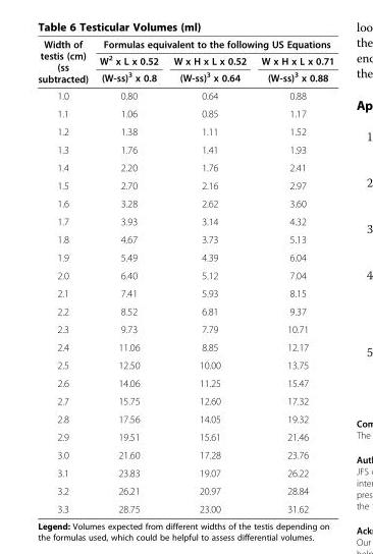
<table><thead><tr><td rowspan="3">Width of testis (cm) (ss subtracted)</td><td colspan="3">Formulas equivalent to the following US Equations</td></tr><tr><td rowspan="2">W<sup>2</sup> x L x 0.52 (W-ss)<sup>3</sup> x 0.8</td><td rowspan="2">W x H x L x 0.52 (W-ss)<sup>3</sup> x 0.64</td><td rowspan="2">W x H x L x 0.71 (W-ss)<sup>3</sup> x 0.88</td></tr><tr></tr></thead><tbody><tr><td>1.0</td><td>0.80</td><td>0.64</td><td>0.88</td></tr><tr><td>1.1</td><td>1.06</td><td>0.85</td><td>1.17</td></tr><tr><td>1.2</td><td>1.38</td><td>1.11</td><td>1.52</td></tr><tr><td>1.3</td><td>1.76</td><td>1.41</td><td>1.93</td></tr><tr><td>1.4</td><td>2.20</td><td>1.76</td><td>2.41</td></tr><tr><td>1.5</td><td>2.70</td><td>2.16</td><td>2.97</td></tr><tr><td>1.6</td><td>3.28</td><td>2.62</td><td>3.60</td></tr><tr><td>1.7</td><td>3.93</td><td>3.14</td><td>4.32</td></tr><tr><td>1.8</td><td>4.67</td><td>3.73</td><td>5.13</td></tr><tr><td>1.9</td><td>5.49</td><td>4.39</td><td>6.04</td></tr><tr><td>2.0</td><td>6.40</td><td>5.12</td><td>7.04</td></tr><tr><td>2.1</td><td>7.41</td><td>5.93</td><td>8.15</td></tr><tr><td>2.2</td><td>8.52</td><td>6.81</td><td>9.37</td></tr><tr><td>2.3</td><td>9.73</td><td>7.79</td><td>10.71</td></tr><tr><td>2.4</td><td>11.06</td><td>8.85</td><td>12.17</td></tr><tr><td>2.5</td><td>12.50</td><td>10.00</td><td>13.75</td></tr><tr><td>2.6</td><td>14.06</td><td>11.25</td><td>15.47</td></tr><tr><td>2.7</td><td>15.75</td><td>12.60</td><td>17.32</td></tr><tr><td>2.8</td><td>17.56</td><td>14.05</td><td>19.32</td></tr><tr><td>2.9</td><td>19.51</td><td>15.61</td><td>21.46</td></tr><tr><td>3.0</td><td>21.60</td><td>17.28</td><td>23.76</td></tr><tr><td>3.1</td><td>23.83</td><td>19.07</td><td>26.22</td></tr><tr><td>3.2</td><td>26.21</td><td>20.97</td><td>28.84</td></tr><tr><td>3.3</td><td>28.75</td><td>23.00</td><td>31.62</td></tr></tbody></table>